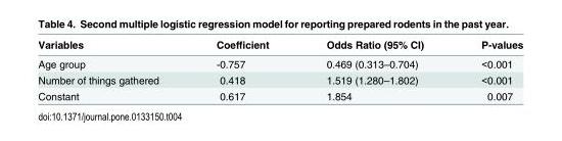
<table><thead><tr><td>Variables</td><td>Coefficient</td><td>Odds Ratio (95% CI)</td><td>P-values</td></tr></thead><tbody><tr><td>Age group</td><td>-0.757</td><td>0.469 (0.313–0.704)</td><td>&lt;0.001</td></tr><tr><td>Number of things gathered</td><td>0.418</td><td>1.519 (1.280–1.802)</td><td>&lt;0.001</td></tr><tr><td>Constant</td><td>0.617</td><td>1.854</td><td>0.007</td></tr></tbody></table>